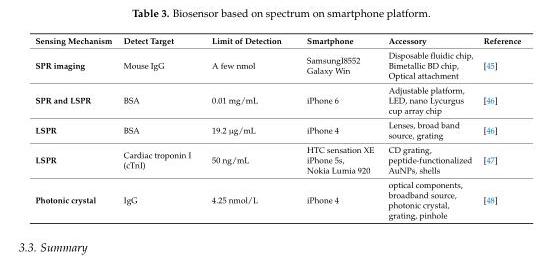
<table><thead><tr><td>Sensing Mechanism</td><td>Detect Target</td><td>Limit of Detection</td><td>Smartphone</td><td>Accessory</td><td>Reference</td></tr></thead><tbody><tr><td>SPR imaging</td><td>Mouse IgG</td><td>A few nmol</td><td>SamsungI8552 Galaxy Win</td><td>Disposable fluidic chip, Bimetallic BD chip, Optical attachment</td><td>[45]</td></tr><tr><td>SPR and LSPR</td><td>BSA</td><td>0.01 mg/mL</td><td>iPhone 6</td><td>Adjustable platform, LED, nano Lycurgus cup array chip</td><td>[46]</td></tr><tr><td>LSPR</td><td>BSA</td><td>19.2 µg/mL</td><td>iPhone 4</td><td>Lenses, broad band source, grating</td><td>[46]</td></tr><tr><td>LSPR</td><td>Cardiac troponin I (cTnI)</td><td>50 ng/mL</td><td>HTC sensation XE iPhone 5s, Nokia Lumia 920</td><td>CD grating, peptide-functionalized AuNPs, shells</td><td>[47]</td></tr><tr><td>Photonic crystal</td><td>IgG</td><td>4.25 nmol/L</td><td>iPhone 4</td><td>optical components, broadband source, photonic crystal, grating, pinhole</td><td>[48]</td></tr></tbody></table>